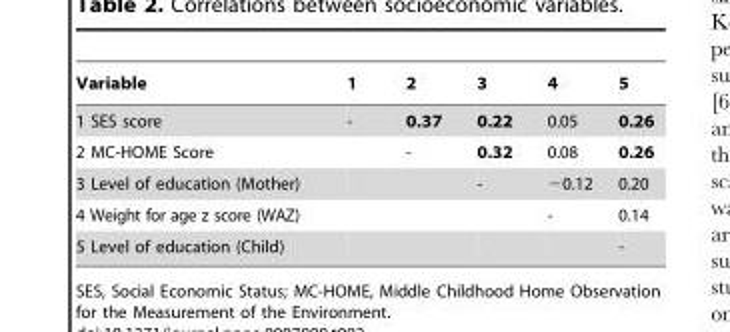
<table><thead><tr><td>Variable</td><td>1</td><td>2</td><td>3</td><td>4</td><td>5</td></tr></thead><tbody><tr><td>1 SES score</td><td>-</td><td>0.37</td><td>0.22</td><td>0.05</td><td>0.26</td></tr><tr><td>2 MC-HOME Score</td><td></td><td>-</td><td>0.32</td><td>0.08</td><td>0.26</td></tr><tr><td>3 Level of education (Mother)</td><td></td><td></td><td>-</td><td>−0.12</td><td>0.20</td></tr><tr><td>4 Weight for age z score (WAZ)</td><td></td><td></td><td></td><td>-</td><td>0.14</td></tr><tr><td>5 Level of education (Child)</td><td></td><td></td><td></td><td></td><td>-</td></tr></tbody></table>